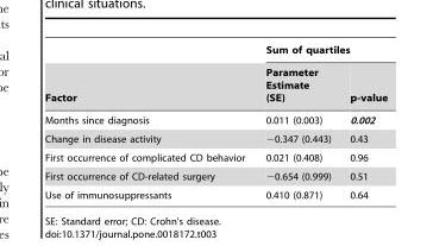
<table><thead><tr><td rowspan="2">Factor</td><td colspan="2">Sum of quartiles</td></tr><tr><td>Parameter Estimate (SE)</td><td>p-value</td></tr></thead><tbody><tr><td>Months since diagnosis</td><td>0.011 (0.003)</td><td>0.002</td></tr><tr><td>Change in disease activity</td><td>−0.347 (0.443)</td><td>0.43</td></tr><tr><td>First occurrence of complicated CD behavior</td><td>0.021 (0.408)</td><td>0.96</td></tr><tr><td>First occurrence of CD-related surgery</td><td>−0.654 (0.999)</td><td>0.51</td></tr><tr><td>Use of immunosuppressants</td><td>0.410 (0.871)</td><td>0.64</td></tr></tbody></table>